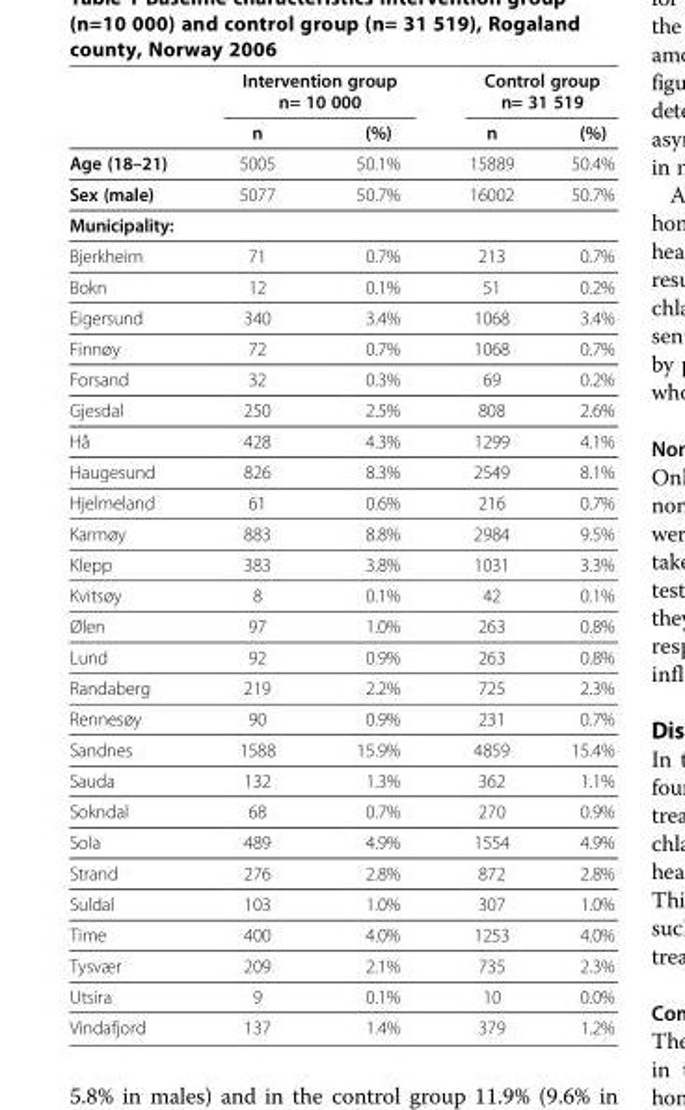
<table><thead><tr><td rowspan="2"></td><td colspan="2">Intervention group n= 10 000</td><td colspan="2">Control group n= 31 519</td></tr><tr><td>n</td><td>(%)</td><td>n</td><td>(%)</td></tr></thead><tbody><tr><td>Age (18–21)</td><td>5005</td><td>50.1%</td><td>15889</td><td>50.4%</td></tr><tr><td>Sex (male)</td><td>5077</td><td>50.7%</td><td>16002</td><td>50.7%</td></tr><tr><td colspan="5">Municipality:</td></tr><tr><td>Bjerkheim</td><td>71</td><td>0.7%</td><td>213</td><td>0.7%</td></tr><tr><td>Bokn</td><td>12</td><td>0.1%</td><td>51</td><td>0.2%</td></tr><tr><td>Eigersund</td><td>340</td><td>3.4%</td><td>1068</td><td>3.4%</td></tr><tr><td>Finnøy</td><td>72</td><td>0.7%</td><td>1068</td><td>0.7%</td></tr><tr><td>Forsand</td><td>32</td><td>0.3%</td><td>69</td><td>0.2%</td></tr><tr><td>Gjesdal</td><td>250</td><td>2.5%</td><td>808</td><td>2.6%</td></tr><tr><td>Hå</td><td>428</td><td>4.3%</td><td>1299</td><td>4.1%</td></tr><tr><td>Haugesund</td><td>826</td><td>8.3%</td><td>2549</td><td>8.1%</td></tr><tr><td>Hjelmeland</td><td>61</td><td>0.6%</td><td>216</td><td>0.7%</td></tr><tr><td>Karmøy</td><td>883</td><td>8.8%</td><td>2984</td><td>9.5%</td></tr><tr><td>Klepp</td><td>383</td><td>3.8%</td><td>1031</td><td>3.3%</td></tr><tr><td>Kvitsøy</td><td>8</td><td>0.1%</td><td>42</td><td>0.1%</td></tr><tr><td>Ølen</td><td>97</td><td>1.0%</td><td>263</td><td>0.8%</td></tr><tr><td>Lund</td><td>92</td><td>0.9%</td><td>263</td><td>0.8%</td></tr><tr><td>Randaberg</td><td>219</td><td>2.2%</td><td>725</td><td>2.3%</td></tr><tr><td>Rennesøy</td><td>90</td><td>0.9%</td><td>231</td><td>0.7%</td></tr><tr><td>Sandnes</td><td>1588</td><td>15.9%</td><td>4859</td><td>15.4%</td></tr><tr><td>Sauda</td><td>132</td><td>1.3%</td><td>362</td><td>1.1%</td></tr><tr><td>Sokndal</td><td>68</td><td>0.7%</td><td>270</td><td>0.9%</td></tr><tr><td>Sola</td><td>489</td><td>4.9%</td><td>1554</td><td>4.9%</td></tr><tr><td>Strand</td><td>276</td><td>2.8%</td><td>872</td><td>2.8%</td></tr><tr><td>Suldal</td><td>103</td><td>1.0%</td><td>307</td><td>1.0%</td></tr><tr><td>Time</td><td>400</td><td>4.0%</td><td>1253</td><td>4.0%</td></tr><tr><td>Tysvær</td><td>209</td><td>2.1%</td><td>735</td><td>2.3%</td></tr><tr><td>Utsira</td><td>9</td><td>0.1%</td><td>10</td><td>0.0%</td></tr><tr><td>Vindafjord</td><td>137</td><td>1.4%</td><td>379</td><td>1.2%</td></tr></tbody></table>